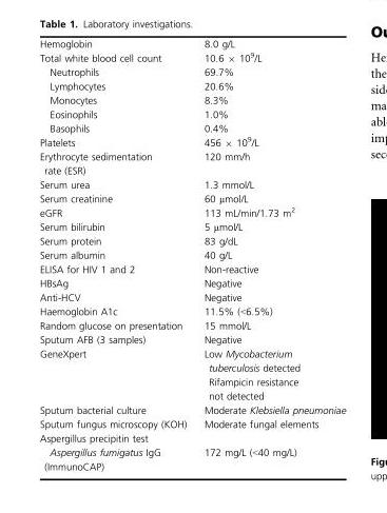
<table><tbody><tr><td>Hemoglobin</td><td>8.0 g/L</td></tr><tr><td>Total white blood cell count</td><td>10.6 × 10<sup>9</sup>/L</td></tr><tr><td>Neutrophils</td><td>69.7%</td></tr><tr><td>Lymphocytes</td><td>20.6%</td></tr><tr><td>Monocytes</td><td>8.3%</td></tr><tr><td>Eosinophils</td><td>1.0%</td></tr><tr><td>Basophils</td><td>0.4%</td></tr><tr><td>Platelets</td><td>456 × 10<sup>9</sup>/L</td></tr><tr><td>Erythrocyte sedimentation rate (ESR)</td><td>120 mm/h</td></tr><tr><td>Serum urea</td><td>1.3 mmol/L</td></tr><tr><td>Serum creatinine</td><td>60 μmol/L</td></tr><tr><td>eGFR</td><td>113 mL/min/1.73 m<sup>2</sup></td></tr><tr><td>Serum bilirubin</td><td>5 μmol/L</td></tr><tr><td>Serum protein</td><td>83 g/dL</td></tr><tr><td>Serum albumin</td><td>40 g/L</td></tr><tr><td>ELISA for HIV 1 and 2</td><td>Non-reactive</td></tr><tr><td>HBsAg</td><td>Negative</td></tr><tr><td>Anti-HCV</td><td>Negative</td></tr><tr><td>Haemoglobin A1c</td><td>11.5% (&lt;6.5%)</td></tr><tr><td>Random glucose on presentation</td><td>15 mmol/L</td></tr><tr><td>Sputum AFB (3 samples)</td><td>Negative</td></tr><tr><td>GeneXpert</td><td>Low Mycobacterium tuberculosis detected Rifampicin resistance not detected</td></tr><tr><td>Sputum bacterial culture</td><td>Moderate Klebsiella pneumoniae</td></tr><tr><td>Sputum fungus microscopy (KOH)</td><td>Moderate fungal elements</td></tr><tr><td colspan="2">Aspergillus precipitin test</td></tr><tr><td>Aspergillus fumigatus IgG (ImmunoCAP)</td><td>172 mg/L (&lt;40 mg/L)</td></tr></tbody></table>